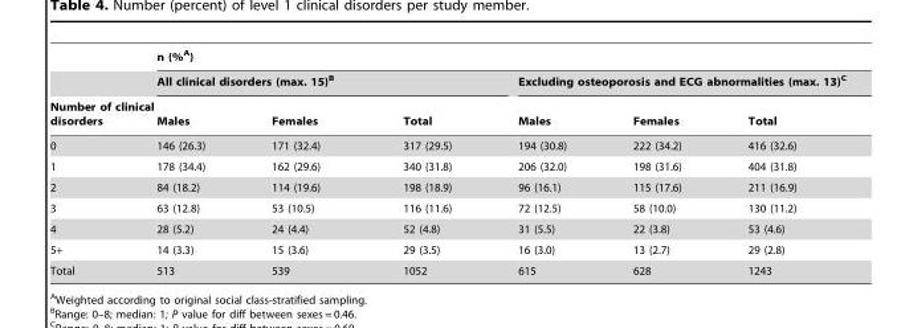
<table><thead><tr><td rowspan="3">Number of clinical disorders</td><td colspan="6">n (%<sup>A</sup>)</td></tr><tr><td colspan="3">All clinical disorders (max. 15)<sup>B</sup></td><td colspan="3">Excluding osteoporosis and ECG abnormalities (max. 13)<sup>C</sup></td></tr><tr><td>Males</td><td>Females</td><td>Total</td><td>Males</td><td>Females</td><td>Total</td></tr></thead><tbody><tr><td>0</td><td>146 (26.3)</td><td>171 (32.4)</td><td>317 (29.5)</td><td>194 (30.8)</td><td>222 (34.2)</td><td>416 (32.6)</td></tr><tr><td>1</td><td>178 (34.4)</td><td>162 (29.6)</td><td>340 (31.8)</td><td>206 (32.0)</td><td>198 (31.6)</td><td>404 (31.8)</td></tr><tr><td>2</td><td>84 (18.2)</td><td>114 (19.6)</td><td>198 (18.9)</td><td>96 (16.1)</td><td>115 (17.6)</td><td>211 (16.9)</td></tr><tr><td>3</td><td>63 (12.8)</td><td>53 (10.5)</td><td>116 (11.6)</td><td>72 (12.5)</td><td>58 (10.0)</td><td>130 (11.2)</td></tr><tr><td>4</td><td>28 (5.2)</td><td>24 (4.4)</td><td>52 (4.8)</td><td>31 (5.5)</td><td>22 (3.8)</td><td>53 (4.6)</td></tr><tr><td>5+</td><td>14 (3.3)</td><td>15 (3.6)</td><td>29 (3.5)</td><td>16 (3.0)</td><td>13 (2.7)</td><td>29 (2.8)</td></tr><tr><td>Total</td><td>513</td><td>539</td><td>1052</td><td>615</td><td>628</td><td>1243</td></tr></tbody></table>